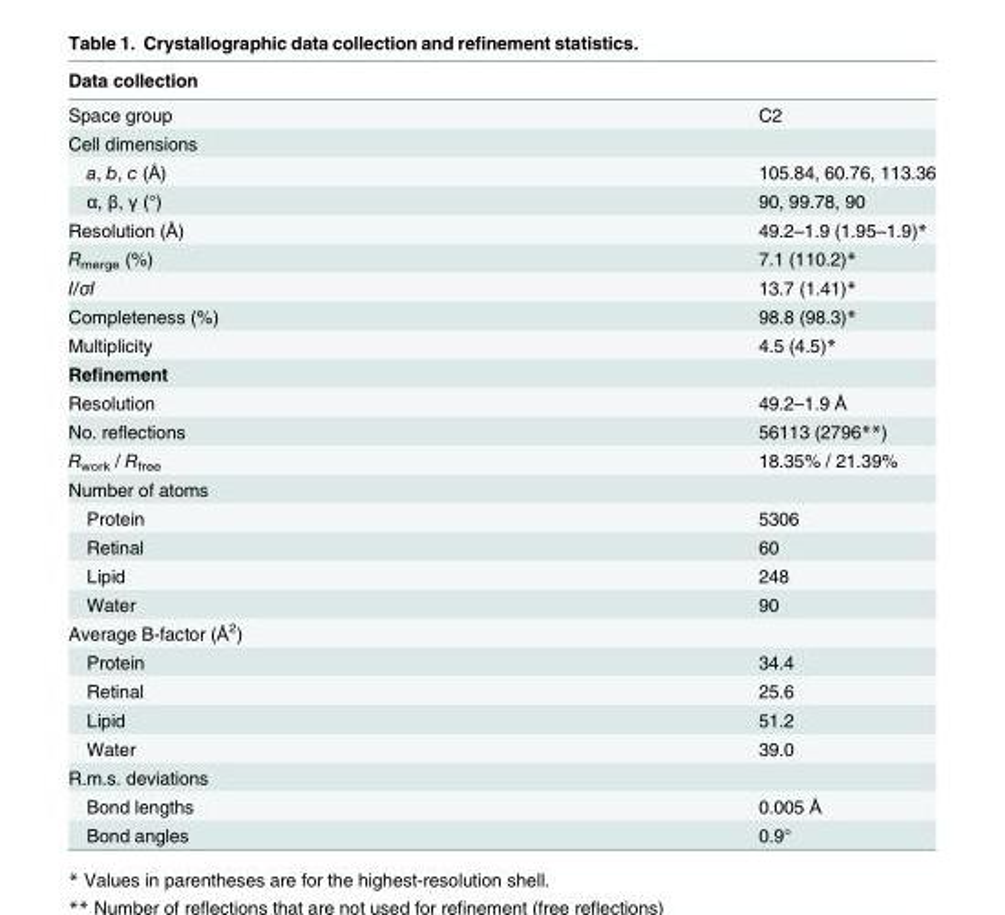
<table><thead><tr><td>Data collection</td><td></td></tr></thead><tbody><tr><td>Space group</td><td>C2</td></tr><tr><td colspan="2">Cell dimensions</td></tr><tr><td>a, b, c (Å)</td><td>105.84, 60.76, 113.36</td></tr><tr><td>α, β, γ (°)</td><td>90, 99.78, 90</td></tr><tr><td>Resolution (Å)</td><td>49.2–1.9 (1.95–1.9)*</td></tr><tr><td>R<sub>merge</sub> (%)</td><td>7.1 (110.2)*</td></tr><tr><td>I/σI</td><td>13.7 (1.41)*</td></tr><tr><td>Completeness (%)</td><td>98.8 (98.3)*</td></tr><tr><td>Multiplicity</td><td>4.5 (4.5)*</td></tr><tr><td colspan="2">Refinement</td></tr><tr><td>Resolution</td><td>49.2–1.9 Å</td></tr><tr><td>No. reflections</td><td>56113 (2796**)</td></tr><tr><td>R<sub>work</sub> / R<sub>free</sub></td><td>18.35% / 21.39%</td></tr><tr><td colspan="2">Number of atoms</td></tr><tr><td>Protein</td><td>5306</td></tr><tr><td>Retinal</td><td>60</td></tr><tr><td>Lipid</td><td>248</td></tr><tr><td>Water</td><td>90</td></tr><tr><td colspan="2">Average B-factor (Å<sup>2</sup>)</td></tr><tr><td>Protein</td><td>34.4</td></tr><tr><td>Retinal</td><td>25.6</td></tr><tr><td>Lipid</td><td>51.2</td></tr><tr><td>Water</td><td>39.0</td></tr><tr><td colspan="2">R.m.s. deviations</td></tr><tr><td>Bond lengths</td><td>0.005 Å</td></tr><tr><td>Bond angles</td><td>0.9°</td></tr></tbody></table>